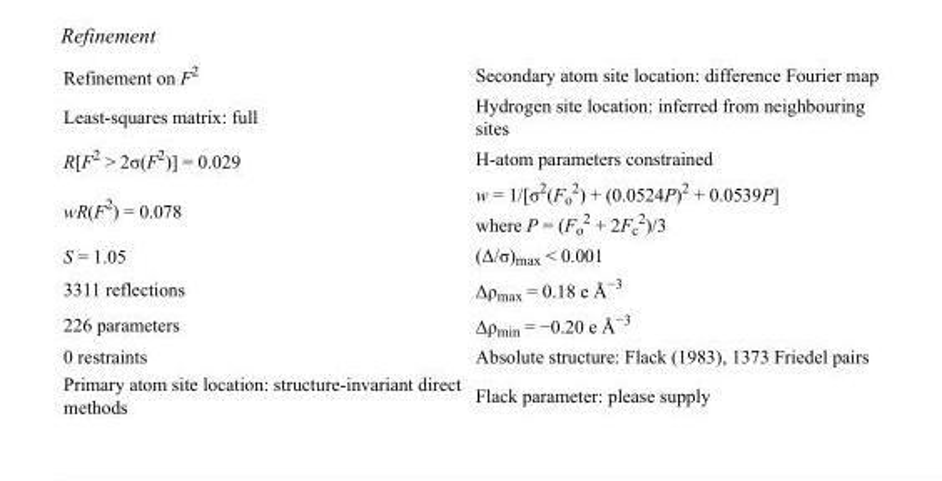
<table><tbody><tr><td>Refinement on F<sup>2</sup></td><td>Secondary atom site location: difference Fourier map</td></tr><tr><td>Least-squares matrix: full</td><td>Hydrogen site location: inferred from neighbouring sites</td></tr><tr><td>R[F<sup>2</sup> &gt; 2σ(F<sup>2</sup>)] = 0.029</td><td>H-atom parameters constrained</td></tr><tr><td>wR(F<sup>2</sup>) = 0.078</td><td>w = 1/[σ<sup>2</sup>(F<sub>o</sub> <sup>2</sup>) + (0.0524P)<sup>2</sup> + 0.0539P] where P = (F<sub>o</sub> <sup>2</sup> + 2F<sub>c</sub> <sup>2</sup>)/3</td></tr><tr><td>S = 1.05</td><td>(Δ/σ)<sub>max</sub> &lt; 0.001</td></tr><tr><td>3311 reflections</td><td>Δρ<sub>max</sub> = 0.18 e Å<sup>−3</sup></td></tr><tr><td>226 parameters</td><td>Δρ<sub>min</sub> = −0.20 e Å<sup>−3</sup></td></tr><tr><td>0 restraints</td><td>Absolute structure: Flack (1983), 1373 Friedel pairs</td></tr><tr><td>Primary atom site location: structure-invariant direct methods</td><td>Flack parameter: please supply</td></tr></tbody></table>